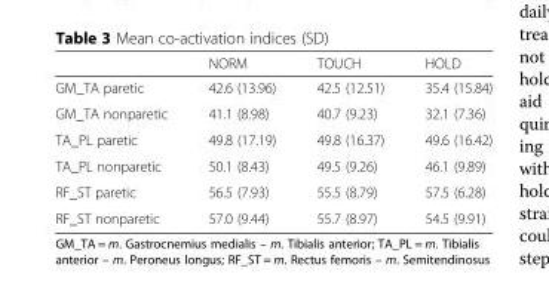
<table><thead><tr><td></td><td>NORM</td><td>TOUCH</td><td>HOLD</td></tr></thead><tbody><tr><td>GM_TA paretic</td><td>42.6 (13.96)</td><td>42.5 (12.51)</td><td>35.4 (15.84)</td></tr><tr><td>GM_TA nonparetic</td><td>41.1 (8.98)</td><td>40.7 (9.23)</td><td>32.1 (7.36)</td></tr><tr><td>TA_PL paretic</td><td>49.8 (17.19)</td><td>49.8 (16.37)</td><td>49.6 (16.42)</td></tr><tr><td>TA_PL nonparetic</td><td>50.1 (8.43)</td><td>49.5 (9.26)</td><td>46.1 (9.89)</td></tr><tr><td>RF_ST paretic</td><td>56.5 (7.93)</td><td>55.5 (8.79)</td><td>57.5 (6.28)</td></tr><tr><td>RF_ST nonparetic</td><td>57.0 (9.44)</td><td>55.7 (8.97)</td><td>54.5 (9.91)</td></tr></tbody></table>